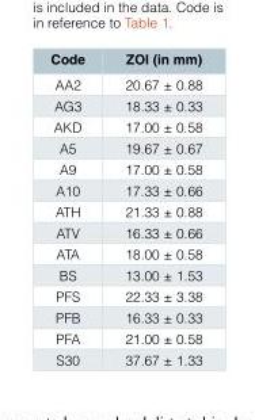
<table><thead><tr><td>Code</td><td>ZOI (in mm)</td></tr></thead><tbody><tr><td>AA2</td><td>20.67 ± 0.88</td></tr><tr><td>AG3</td><td>18.33 ± 0.33</td></tr><tr><td>AKD</td><td>17.00 ± 0.58</td></tr><tr><td>A5</td><td>19.67 ± 0.67</td></tr><tr><td>A9</td><td>17.00 ± 0.58</td></tr><tr><td>A10</td><td>17.33 ± 0.66</td></tr><tr><td>ATH</td><td>21.33 ± 0.88</td></tr><tr><td>ATV</td><td>16.33 ± 0.66</td></tr><tr><td>ATA</td><td>18.00 ± 0.58</td></tr><tr><td>BS</td><td>13.00 ± 1.53</td></tr><tr><td>PFS</td><td>22.33 ± 3.38</td></tr><tr><td>PFB</td><td>16.33 ± 0.33</td></tr><tr><td>PFA</td><td>21.00 ± 0.58</td></tr><tr><td>S30</td><td>37.67 ± 1.33</td></tr></tbody></table>